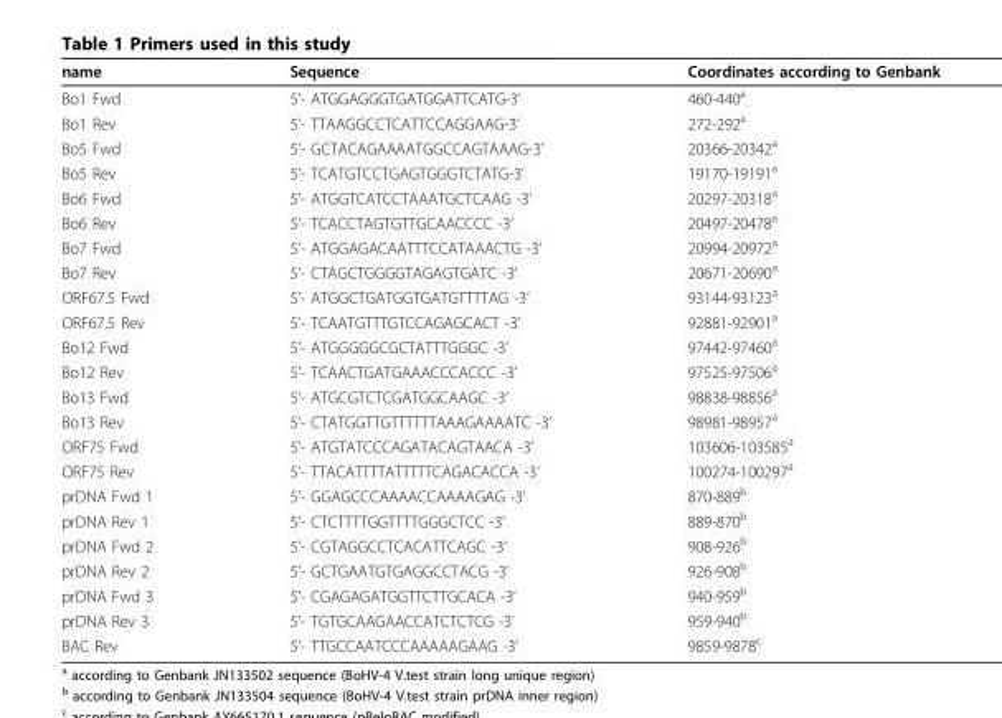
<table><thead><tr><td>name</td><td>Sequence</td><td>Coordinates according to Genbank</td></tr></thead><tbody><tr><td>Bo1 Fwd</td><td>5’- ATGGAGGGTGATGGATTCATG-3’</td><td>460-440<sup>a</sup></td></tr><tr><td>Bo1 Rev</td><td>5’- TTAAGGCCTCATTCCAGGAAG-3’</td><td>272-292<sup>a</sup></td></tr><tr><td>Bo5 Fwd</td><td>5’- GCTACAGAAAATGGCCAGTAAAG-3’</td><td>20366-20342<sup>a</sup></td></tr><tr><td>Bo5 Rev</td><td>5’- TCATGTCCTGAGTGGGTCTATG-3’</td><td>19170-19191<sup>a</sup></td></tr><tr><td>Bo6 Fwd</td><td>5’- ATGGTCATCCTAAATGCTCAAG -3’</td><td>20297-20318<sup>a</sup></td></tr><tr><td>Bo6 Rev</td><td>5’- TCACCTAGTGTTGCAACCCC -3’</td><td>20497-20478<sup>a</sup></td></tr><tr><td>Bo7 Fwd</td><td>5’- ATGGAGACAATTTCCATAAACTG -3’</td><td>20994-20972<sup>a</sup></td></tr><tr><td>Bo7 Rev</td><td>5’- CTAGCTGGGGTAGAGTGATC -3’</td><td>20671-20690<sup>a</sup></td></tr><tr><td>ORF67.5 Fwd</td><td>5’- ATGGCTGATGGTGATGTTTTAG -3’</td><td>93144-93123<sup>a</sup></td></tr><tr><td>ORF67.5 Rev</td><td>5’- TCAATGTTTGTCCAGAGCACT -3’</td><td>92881-92901<sup>a</sup></td></tr><tr><td>Bo12 Fwd</td><td>5’- ATGGGGGCGCTATTTGGGC -3’</td><td>97442-97460<sup>a</sup></td></tr><tr><td>Bo12 Rev</td><td>5’- TCAACTGATGAAACCCACCC -3’</td><td>97525-97506<sup>a</sup></td></tr><tr><td>Bo13 Fwd</td><td>5’- ATGCGTCTCGATGGCAAGC -3’</td><td>98838-98856<sup>a</sup></td></tr><tr><td>Bo13 Rev</td><td>5’- CTATGGTTGTTTTTTAAAGAAAATC -3’</td><td>98981-98957<sup>a</sup></td></tr><tr><td>ORF75 Fwd</td><td>5’- ATGTATCCCAGATACAGTAACA -3’</td><td>103606-103585<sup>a</sup></td></tr><tr><td>ORF75 Rev</td><td>5’- TTACATTTTATTTTTCAGACACCA -3’</td><td>100274-100297<sup>a</sup></td></tr><tr><td>prDNA Fwd 1</td><td>5’- GGAGCCCAAAACCAAAAGAG -3’</td><td>870-889<sup>b</sup></td></tr><tr><td>prDNA Rev 1</td><td>5’- CTCTTTTGGTTTTGGGCTCC -3’</td><td>889-870<sup>b</sup></td></tr><tr><td>prDNA Fwd 2</td><td>5’- CGTAGGCCTCACATTCAGC -3’</td><td>908-926<sup>b</sup></td></tr><tr><td>prDNA Rev 2</td><td>5’- GCTGAATGTGAGGCCTACG -3’</td><td>926-908<sup>b</sup></td></tr><tr><td>prDNA Fwd 3</td><td>5’- CGAGAGATGGTTCTTGCACA -3’</td><td>940-959<sup>b</sup></td></tr><tr><td>prDNA Rev 3</td><td>5’- TGTGCAAGAACCATCTCTCG -3’</td><td>959-940<sup>b</sup></td></tr><tr><td>BAC Rev</td><td>5’- TTGCCAATCCCAAAAAGAAG -3’</td><td>9859-9878<sup>c</sup></td></tr></tbody></table>